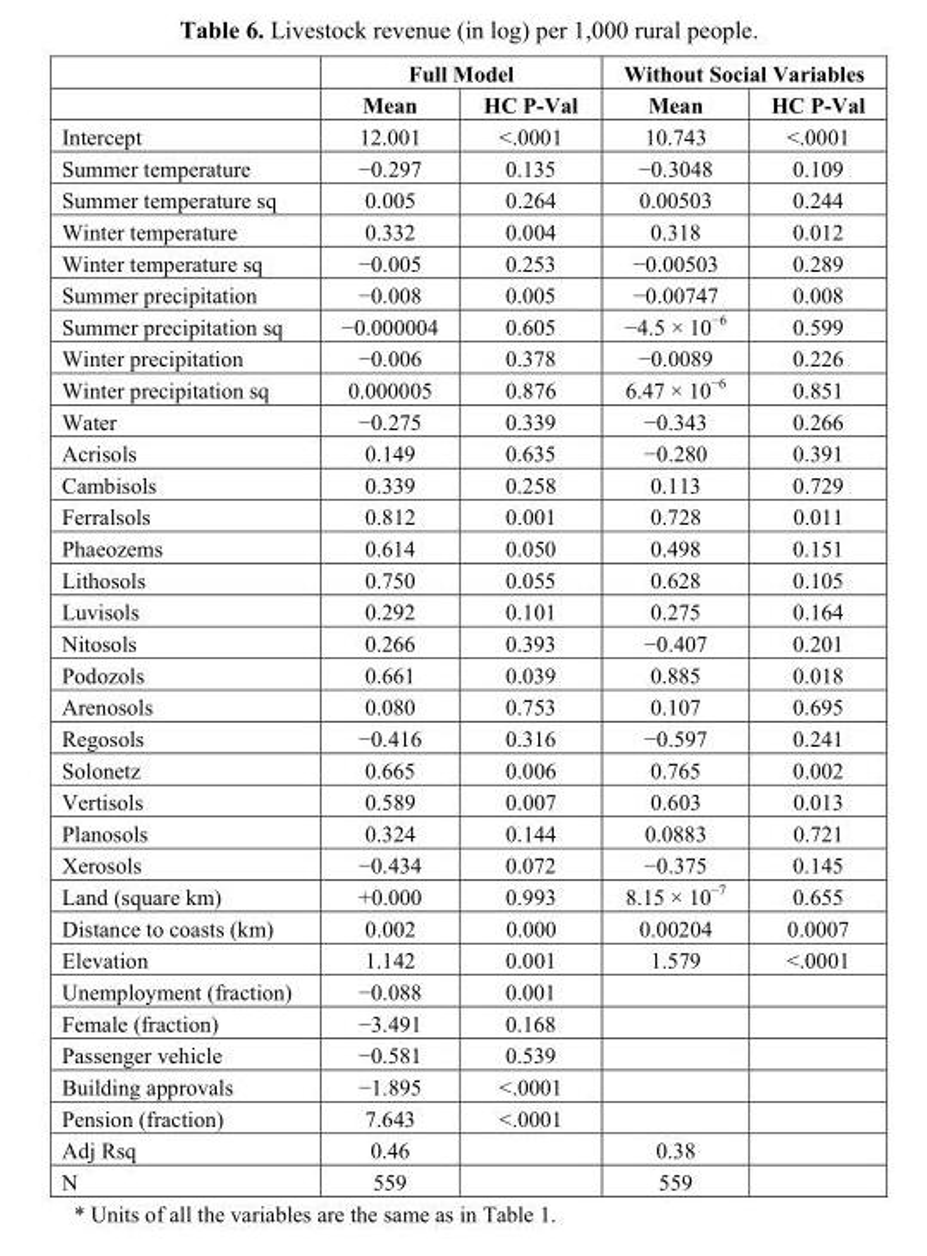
<table><thead><tr><td rowspan="2"></td><td colspan="2">Full Model</td><td colspan="2">Without Social Variables</td></tr><tr><td>Mean</td><td>HC P-Val</td><td>Mean</td><td>HC P-Val</td></tr></thead><tbody><tr><td>Intercept</td><td>12.001</td><td>&lt;.0001</td><td>10.743</td><td>&lt;.0001</td></tr><tr><td>Summer temperature</td><td>−0.297</td><td>0.135</td><td>−0.3048</td><td>0.109</td></tr><tr><td>Summer temperature sq</td><td>0.005</td><td>0.264</td><td>0.00503</td><td>0.244</td></tr><tr><td>Winter temperature</td><td>0.332</td><td>0.004</td><td>0.318</td><td>0.012</td></tr><tr><td>Winter temperature sq</td><td>−0.005</td><td>0.253</td><td>−0.00503</td><td>0.289</td></tr><tr><td>Summer precipitation</td><td>−0.008</td><td>0.005</td><td>−0.00747</td><td>0.008</td></tr><tr><td>Summer precipitation sq</td><td>−0.000004</td><td>0.605</td><td>−4.5 × 10<sup>−6</sup></td><td>0.599</td></tr><tr><td>Winter precipitation</td><td>−0.006</td><td>0.378</td><td>−0.0089</td><td>0.226</td></tr><tr><td>Winter precipitation sq</td><td>0.000005</td><td>0.876</td><td>6.47 × 10<sup>−6</sup></td><td>0.851</td></tr><tr><td>Water</td><td>−0.275</td><td>0.339</td><td>−0.343</td><td>0.266</td></tr><tr><td>Acrisols</td><td>0.149</td><td>0.635</td><td>−0.280</td><td>0.391</td></tr><tr><td>Cambisols</td><td>0.339</td><td>0.258</td><td>0.113</td><td>0.729</td></tr><tr><td>Ferralsols</td><td>0.812</td><td>0.001</td><td>0.728</td><td>0.011</td></tr><tr><td>Phaeozems</td><td>0.614</td><td>0.050</td><td>0.498</td><td>0.151</td></tr><tr><td>Lithosols</td><td>0.750</td><td>0.055</td><td>0.628</td><td>0.105</td></tr><tr><td>Luvisols</td><td>0.292</td><td>0.101</td><td>0.275</td><td>0.164</td></tr><tr><td>Nitosols</td><td>0.266</td><td>0.393</td><td>−0.407</td><td>0.201</td></tr><tr><td>Podozols</td><td>0.661</td><td>0.039</td><td>0.885</td><td>0.018</td></tr><tr><td>Arenosols</td><td>0.080</td><td>0.753</td><td>0.107</td><td>0.695</td></tr><tr><td>Regosols</td><td>−0.416</td><td>0.316</td><td>−0.597</td><td>0.241</td></tr><tr><td>Solonetz</td><td>0.665</td><td>0.006</td><td>0.765</td><td>0.002</td></tr><tr><td>Vertisols</td><td>0.589</td><td>0.007</td><td>0.603</td><td>0.013</td></tr><tr><td>Planosols</td><td>0.324</td><td>0.144</td><td>0.0883</td><td>0.721</td></tr><tr><td>Xerosols</td><td>−0.434</td><td>0.072</td><td>−0.375</td><td>0.145</td></tr><tr><td>Land (square km)</td><td>+0.000</td><td>0.993</td><td>8.15 × 10<sup>−7</sup></td><td>0.655</td></tr><tr><td>Distance to coasts (km)</td><td>0.002</td><td>0.000</td><td>0.00204</td><td>0.0007</td></tr><tr><td>Elevation</td><td>1.142</td><td>0.001</td><td>1.579</td><td>&lt;.0001</td></tr><tr><td>Unemployment (fraction)</td><td>−0.088</td><td>0.001</td><td></td><td></td></tr><tr><td>Female (fraction)</td><td>−3.491</td><td>0.168</td><td></td><td></td></tr><tr><td>Passenger vehicle</td><td>−0.581</td><td>0.539</td><td></td><td></td></tr><tr><td>Building approvals</td><td>−1.895</td><td>&lt;.0001</td><td></td><td></td></tr><tr><td>Pension (fraction)</td><td>7.643</td><td>&lt;.0001</td><td></td><td></td></tr><tr><td>Adj Rsq</td><td>0.46</td><td></td><td>0.38</td><td></td></tr><tr><td>N</td><td>559</td><td></td><td>559</td><td></td></tr></tbody></table>